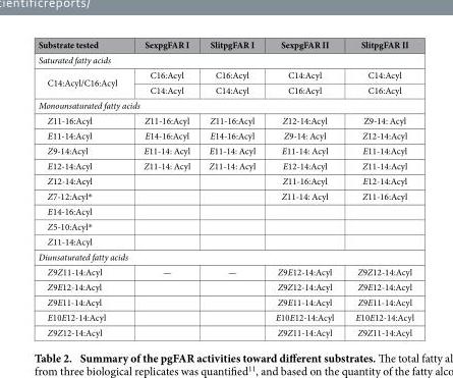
<table><thead><tr><td>Substrate tested</td><td>SexpgFAR I</td><td>SlitpgFAR I</td><td>SexpgFAR II</td><td>SlitpgFAR II</td></tr></thead><tbody><tr><td colspan="5">Saturated fatty acids</td></tr><tr><td rowspan="2">C14:Acyl/C16:Acyl</td><td>C16:Acyl</td><td>C16:Acyl</td><td>C14:Acyl</td><td>C14:Acyl</td></tr><tr><td>C14:Acyl</td><td>C14:Acyl</td><td>C16:Acyl</td><td>C16:Acyl</td></tr><tr><td colspan="5">Monounsaturated fatty acids</td></tr><tr><td>Z11-16:Acyl</td><td>Z11-16:Acyl</td><td>Z11-16:Acyl</td><td>Z12-14:Acyl</td><td>Z9-14: Acyl</td></tr><tr><td>E11-14:Acyl</td><td>E14-16:Acyl</td><td>E14-16:Acyl</td><td>Z9-14: Acyl</td><td>Z12-14:Acyl</td></tr><tr><td>Z9-14:Acyl</td><td>E11-14: Acyl</td><td>E11-14: Acyl</td><td>E11-14: Acyl</td><td>E11-14:Acyl</td></tr><tr><td>E12-14:Acyl</td><td>Z11-14: Acyl</td><td>Z11-14: Acyl</td><td>E12-14:Acyl</td><td>Z11-14:Acyl</td></tr><tr><td>Z12-14:Acyl</td><td></td><td></td><td>Z11-16:Acyl</td><td>E12-14:Acyl</td></tr><tr><td>Z7-12:Acyl*</td><td></td><td></td><td>Z11-14: Acyl</td><td>Z11-16:Acyl</td></tr><tr><td colspan="5">E14-16:Acyl</td></tr><tr><td colspan="5">Z5-10:Acyl*</td></tr><tr><td colspan="5">Z11-14:Acyl</td></tr><tr><td colspan="5">Diunsaturated fatty acids</td></tr><tr><td>Z9Z11-14:Acyl</td><td>—</td><td>—</td><td>Z9E12-14:Acyl</td><td>Z9Z12-14:Acyl</td></tr><tr><td>Z9E12-14:Acyl</td><td></td><td></td><td>Z9Z12-14:Acyl</td><td>Z9E12-14:Acyl</td></tr><tr><td>Z9E11-14:Acyl</td><td></td><td></td><td>Z9E11-14:Acyl</td><td>Z9E11-14:Acyl</td></tr><tr><td>E10E12-14:Acyl</td><td></td><td></td><td>E10E12-14:Acyl</td><td>E10E12-14:Acyl</td></tr><tr><td>Z9Z12-14:Acyl</td><td></td><td></td><td>Z9Z11-14:Acyl</td><td>Z9Z11-14:Acyl</td></tr></tbody></table>